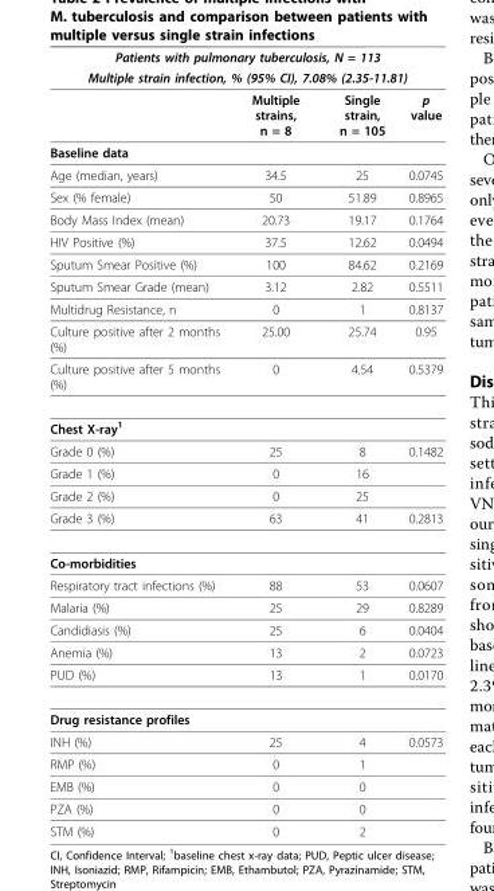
<table><thead><tr><td rowspan="2" colspan="4">Patients with pulmonary tuberculosis, N = 113 Multiple strain infection, % (95% CI), 7.08% (2.35-11.81)</td></tr><tr></tr><tr><td></td><td>Multiple strains, n = 8</td><td>Single strain, n = 105</td><td>p value</td></tr></thead><tbody><tr><td colspan="4">Baseline data</td></tr><tr><td>Age (median, years)</td><td>34.5</td><td>25</td><td>0.0745</td></tr><tr><td>Sex (% female)</td><td>50</td><td>51.89</td><td>0.8965</td></tr><tr><td>Body Mass Index (mean)</td><td>20.73</td><td>19.17</td><td>0.1764</td></tr><tr><td>HIV Positive (%)</td><td>37.5</td><td>12.62</td><td>0.0494</td></tr><tr><td>Sputum Smear Positive (%)</td><td>100</td><td>84.62</td><td>0.2169</td></tr><tr><td>Sputum Smear Grade (mean)</td><td>3.12</td><td>2.82</td><td>0.5511</td></tr><tr><td>Multidrug Resistance, n</td><td>0</td><td>1</td><td>0.8137</td></tr><tr><td>Culture positive after 2 months (%)</td><td>25.00</td><td>25.74</td><td>0.95</td></tr><tr><td>Culture positive after 5 months (%)</td><td>0</td><td>4.54</td><td>0.5379</td></tr><tr><td colspan="4">Chest X-ray1</td></tr><tr><td>Grade 0 (%)</td><td>25</td><td>8</td><td>0.1482</td></tr><tr><td>Grade 1 (%)</td><td>0</td><td>16</td><td></td></tr><tr><td>Grade 2 (%)</td><td>0</td><td>25</td><td></td></tr><tr><td>Grade 3 (%)</td><td>63</td><td>41</td><td>0.2813</td></tr><tr><td colspan="4">Co-morbidities</td></tr><tr><td>Respiratory tract infections (%)</td><td>88</td><td>53</td><td>0.0607</td></tr><tr><td>Malaria (%)</td><td>25</td><td>29</td><td>0.8289</td></tr><tr><td>Candidiasis (%)</td><td>25</td><td>6</td><td>0.0404</td></tr><tr><td>Anemia (%)</td><td>13</td><td>2</td><td>0.0723</td></tr><tr><td>PUD (%)</td><td>13</td><td>1</td><td>0.0170</td></tr><tr><td colspan="4">Drug resistance profiles</td></tr><tr><td>INH (%)</td><td>25</td><td>4</td><td>0.0573</td></tr><tr><td>RMP (%)</td><td>0</td><td>1</td><td></td></tr><tr><td>EMB (%)</td><td>0</td><td>0</td><td></td></tr><tr><td>PZA (%)</td><td>0</td><td>0</td><td></td></tr><tr><td>STM (%)</td><td>0</td><td>2</td><td></td></tr></tbody></table>